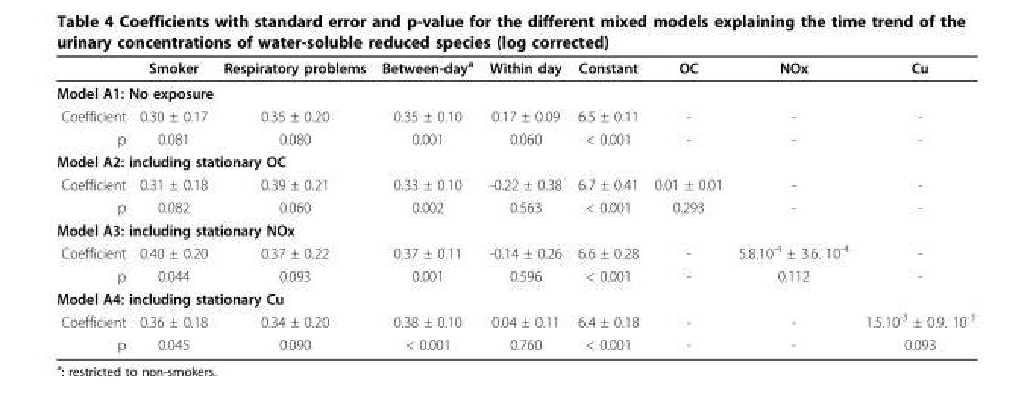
<table><thead><tr><td></td><td>Smoker</td><td>Respiratory problems</td><td>Between-day<sup>a</sup></td><td>Within day</td><td>Constant</td><td>OC</td><td>NOx</td><td>Cu</td></tr></thead><tbody><tr><td colspan="9">Model A1: No exposure</td></tr><tr><td>Coefficient</td><td>0.30 ± 0.17</td><td>0.35 ± 0.20</td><td>0.35 ± 0.10</td><td>0.17 ± 0.09</td><td>6.5 ± 0.11</td><td>-</td><td>-</td><td>-</td></tr><tr><td>p</td><td>0.081</td><td>0.080</td><td>0.001</td><td>0.060</td><td>&lt; 0.001</td><td>-</td><td>-</td><td>-</td></tr><tr><td colspan="9">Model A2: including stationary OC</td></tr><tr><td>Coefficient</td><td>0.31 ± 0.18</td><td>0.39 ± 0.21</td><td>0.33 ± 0.10</td><td>-0.22 ± 0.38</td><td>6.7 ± 0.41</td><td>0.01 ± 0.01</td><td>-</td><td>-</td></tr><tr><td>p</td><td>0.082</td><td>0.060</td><td>0.002</td><td>0.563</td><td>&lt; 0.001</td><td>0.293</td><td>-</td><td>-</td></tr><tr><td colspan="9">Model A3: including stationary NOx</td></tr><tr><td>Coefficient</td><td>0.40 ± 0.20</td><td>0.37 ± 0.22</td><td>0.37 ± 0.11</td><td>-0.14 ± 0.26</td><td>6.6 ± 0.28</td><td>-</td><td>5.8.10<sup>-4</sup> ± 3.6. 10<sup>-4</sup></td><td>-</td></tr><tr><td>p</td><td>0.044</td><td>0.093</td><td>0.001</td><td>0.596</td><td>&lt; 0.001</td><td>-</td><td>0.112</td><td>-</td></tr><tr><td colspan="9">Model A4: including stationary Cu</td></tr><tr><td>Coefficient</td><td>0.36 ± 0.18</td><td>0.34 ± 0.20</td><td>0.38 ± 0.10</td><td>0.04 ± 0.11</td><td>6.4 ± 0.18</td><td>-</td><td>-</td><td>1.5.10<sup>-3</sup> ± 0.9. 10<sup>-3</sup></td></tr><tr><td>p</td><td>0.045</td><td>0.090</td><td>&lt; 0.001</td><td>0.760</td><td>&lt; 0.001</td><td>-</td><td>-</td><td>0.093</td></tr></tbody></table>